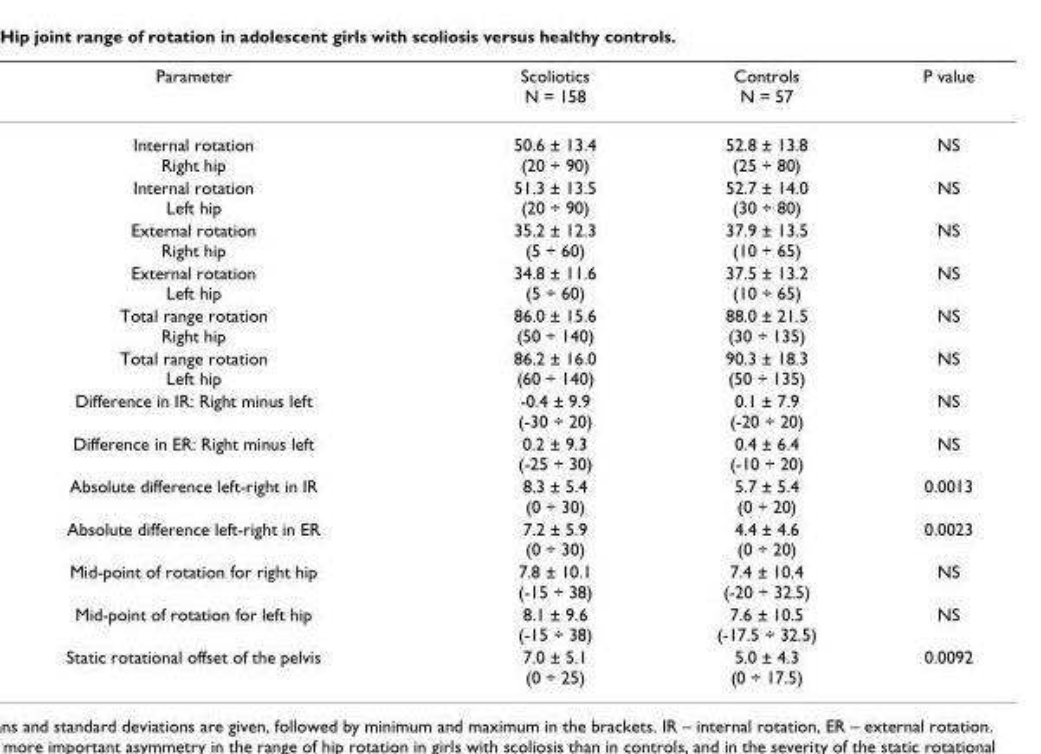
<table><thead><tr><td>Parameter</td><td>Scoliotics N = 158</td><td>Controls N = 57</td><td>P value</td></tr></thead><tbody><tr><td>Internal rotation Right hip</td><td>50.6 ± 13.4 (20 ÷ 90)</td><td>52.8 ± 13.8 (25 ÷ 80)</td><td>NS</td></tr><tr><td>Internal rotation Left hip</td><td>51.3 ± 13.5 (20 ÷ 90)</td><td>52.7 ± 14.0 (30 ÷ 80)</td><td>NS</td></tr><tr><td>External rotation Right hip</td><td>35.2 ± 12.3 (5 ÷ 60)</td><td>37.9 ± 13.5 (10 ÷ 65)</td><td>NS</td></tr><tr><td>External rotation Left hip</td><td>34.8 ± 11.6 (5 ÷ 60)</td><td>37.5 ± 13.2 (10 ÷ 65)</td><td>NS</td></tr><tr><td>Total range rotation Right hip</td><td>86.0 ± 15.6 (50 ÷ 140)</td><td>88.0 ± 21.5 (30 ÷ 135)</td><td>NS</td></tr><tr><td>Total range rotation Left hip</td><td>86.2 ± 16.0 (60 ÷ 140)</td><td>90.3 ± 18.3 (50 ÷ 135)</td><td>NS</td></tr><tr><td>Difference in IR: Right minus left</td><td>-0.4 ± 9.9 (-30 ÷ 20)</td><td>0.1 ± 7.9 (-20 ÷ 20)</td><td>NS</td></tr><tr><td>Difference in ER: Right minus left</td><td>0.2 ± 9.3 (-25 ÷ 30)</td><td>0.4 ± 6.4 (-10 ÷ 20)</td><td>NS</td></tr><tr><td>Absolute difference left-right in IR</td><td>8.3 ± 5.4 (0 ÷ 30)</td><td>5.7 ± 5.4 (0 ÷ 20)</td><td>0.0013</td></tr><tr><td>Absolute difference left-right in ER</td><td>7.2 ± 5.9 (0 ÷ 30)</td><td>4.4 ± 4.6 (0 ÷ 20)</td><td>0.0023</td></tr><tr><td>Mid-point of rotation for right hip</td><td>7.8 ± 10.1 (-15 ÷ 38)</td><td>7.4 ± 10.4 (-20 ÷ 32.5)</td><td>NS</td></tr><tr><td>Mid-point of rotation for left hip</td><td>8.1 ± 9.6 (-15 ÷ 38)</td><td>7.6 ± 10.5 (-17.5 ÷ 32.5)</td><td>NS</td></tr><tr><td>Static rotational offset of the pelvis</td><td>7.0 ± 5.1 (0 ÷ 25)</td><td>5.0 ± 4.3 (0 ÷ 17.5)</td><td>0.0092</td></tr></tbody></table>